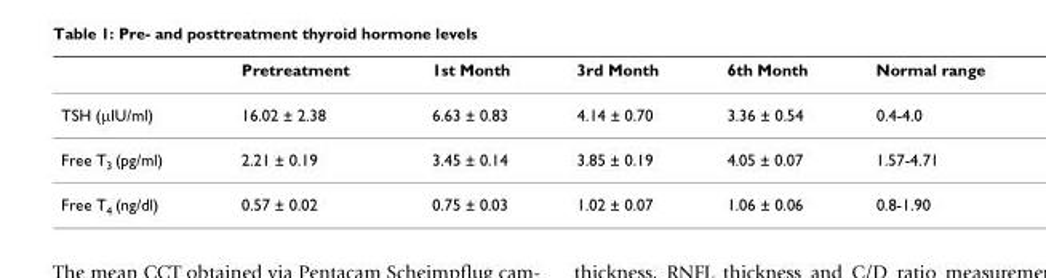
<table><thead><tr><td></td><td>Pretreatment</td><td>1st Month</td><td>3rd Month</td><td>6th Month</td><td>Normal range</td></tr></thead><tbody><tr><td>TSH (μIU/ml)</td><td>16.02 ± 2.38</td><td>6.63 ± 0.83</td><td>4.14 ± 0.70</td><td>3.36 ± 0.54</td><td>0.4-4.0</td></tr><tr><td>Free T<sub>3</sub> (pg/ml)</td><td>2.21 ± 0.19</td><td>3.45 ± 0.14</td><td>3.85 ± 0.19</td><td>4.05 ± 0.07</td><td>1.57-4.71</td></tr><tr><td>Free T<sub>4</sub> (ng/dl)</td><td>0.57 ± 0.02</td><td>0.75 ± 0.03</td><td>1.02 ± 0.07</td><td>1.06 ± 0.06</td><td>0.8-1.90</td></tr></tbody></table>